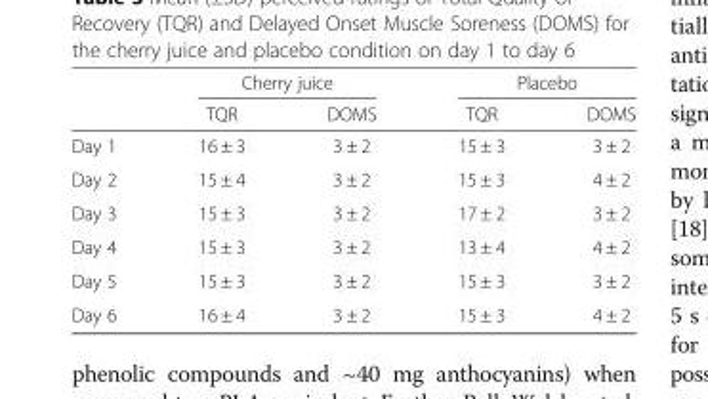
<table><thead><tr><td rowspan="2"></td><td colspan="2">Cherry juice</td><td colspan="2">Placebo</td></tr><tr><td>TQR</td><td>DOMS</td><td>TQR</td><td>DOMS</td></tr></thead><tbody><tr><td>Day 1</td><td>16 ± 3</td><td>3 ± 2</td><td>15 ± 3</td><td>3 ± 2</td></tr><tr><td>Day 2</td><td>15 ± 4</td><td>3 ± 2</td><td>15 ± 3</td><td>4 ± 2</td></tr><tr><td>Day 3</td><td>15 ± 3</td><td>3 ± 2</td><td>17 ± 2</td><td>3 ± 2</td></tr><tr><td>Day 4</td><td>15 ± 3</td><td>3 ± 2</td><td>13 ± 4</td><td>4 ± 2</td></tr><tr><td>Day 5</td><td>15 ± 3</td><td>3 ± 2</td><td>15 ± 3</td><td>3 ± 2</td></tr><tr><td>Day 6</td><td>16 ± 4</td><td>3 ± 2</td><td>15 ± 3</td><td>4 ± 2</td></tr></tbody></table>